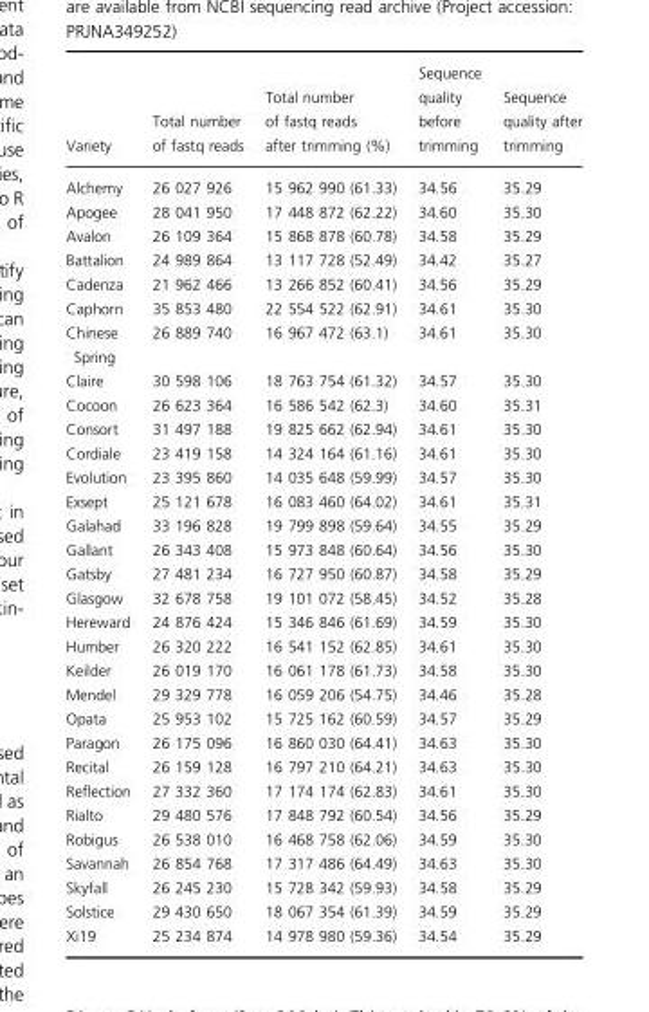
<table><thead><tr><td>Variety</td><td>Total number of fastq reads</td><td>Total number of fastq reads after trimming (%)</td><td>Sequence quality before trimming</td><td>Sequence quality after trimming</td></tr></thead><tbody><tr><td>Alchemy</td><td>26 027 926</td><td>15 962 990 (61.33)</td><td>34.56</td><td>35.29</td></tr><tr><td>Apogee</td><td>28 041 950</td><td>17 448 872 (62.22)</td><td>34.60</td><td>35.30</td></tr><tr><td>Avalon</td><td>26 109 364</td><td>15 868 878 (60.78)</td><td>34.58</td><td>35.29</td></tr><tr><td>Battalion</td><td>24 989 864</td><td>13 117 728 (52.49)</td><td>34.42</td><td>35.27</td></tr><tr><td>Cadenza</td><td>21 962 466</td><td>13 266 852 (60.41)</td><td>34.56</td><td>35.29</td></tr><tr><td>Caphorn</td><td>35 853 480</td><td>22 554 522 (62.91)</td><td>34.61</td><td>35.30</td></tr><tr><td>Chinese Spring</td><td>26 889 740</td><td>16 967 472 (63.1)</td><td>34.61</td><td>35.30</td></tr><tr><td>Claire</td><td>30 598 106</td><td>18 763 754 (61.32)</td><td>34.57</td><td>35.30</td></tr><tr><td>Cocoon</td><td>26 623 364</td><td>16 586 542 (62.3)</td><td>34.60</td><td>35.31</td></tr><tr><td>Consort</td><td>31 497 188</td><td>19 825 662 (62.94)</td><td>34.61</td><td>35.30</td></tr><tr><td>Cordiale</td><td>23 419 158</td><td>14 324 164 (61.16)</td><td>34.61</td><td>35.30</td></tr><tr><td>Evolution</td><td>23 395 860</td><td>14 035 648 (59.99)</td><td>34.57</td><td>35.30</td></tr><tr><td>Exsept</td><td>25 121 678</td><td>16 083 460 (64.02)</td><td>34.61</td><td>35.31</td></tr><tr><td>Galahad</td><td>33 196 828</td><td>19 799 898 (59.64)</td><td>34.55</td><td>35.29</td></tr><tr><td>Gallant</td><td>26 343 408</td><td>15 973 848 (60.64)</td><td>34.56</td><td>35.30</td></tr><tr><td>Gatsby</td><td>27 481 234</td><td>16 727 950 (60.87)</td><td>34.58</td><td>35.29</td></tr><tr><td>Glasgow</td><td>32 678 758</td><td>19 101 072 (58.45)</td><td>34.52</td><td>35.28</td></tr><tr><td>Hereward</td><td>24 876 424</td><td>15 346 846 (61.69)</td><td>34.59</td><td>35.30</td></tr><tr><td>Humber</td><td>26 320 222</td><td>16 541 152 (62.85)</td><td>34.61</td><td>35.30</td></tr><tr><td>Keilder</td><td>26 019 170</td><td>16 061 178 (61.73)</td><td>34.58</td><td>35.30</td></tr><tr><td>Mendel</td><td>29 329 778</td><td>16 059 206 (54.75)</td><td>34.46</td><td>35.28</td></tr><tr><td>Opata</td><td>25 953 102</td><td>15 725 162 (60.59)</td><td>34.57</td><td>35.29</td></tr><tr><td>Paragon</td><td>26 175 096</td><td>16 860 030 (64.41)</td><td>34.63</td><td>35.30</td></tr><tr><td>Recital</td><td>26 159 128</td><td>16 797 210 (64.21)</td><td>34.63</td><td>35.30</td></tr><tr><td>Reflection</td><td>27 332 360</td><td>17 174 174 (62.83)</td><td>34.61</td><td>35.30</td></tr><tr><td>Rialto</td><td>29 480 576</td><td>17 848 792 (60.54)</td><td>34.56</td><td>35.29</td></tr><tr><td>Robigus</td><td>26 538 010</td><td>16 468 758 (62.06)</td><td>34.59</td><td>35.30</td></tr><tr><td>Savannah</td><td>26 854 768</td><td>17 317 486 (64.49)</td><td>34.63</td><td>35.30</td></tr><tr><td>Skyfall</td><td>26 245 230</td><td>15 728 342 (59.93)</td><td>34.58</td><td>35.29</td></tr><tr><td>Solstice</td><td>29 430 650</td><td>18 067 354 (61.39)</td><td>34.59</td><td>35.29</td></tr><tr><td>Xi19</td><td>25 234 874</td><td>14 978 980 (59.36)</td><td>34.54</td><td>35.29</td></tr></tbody></table>